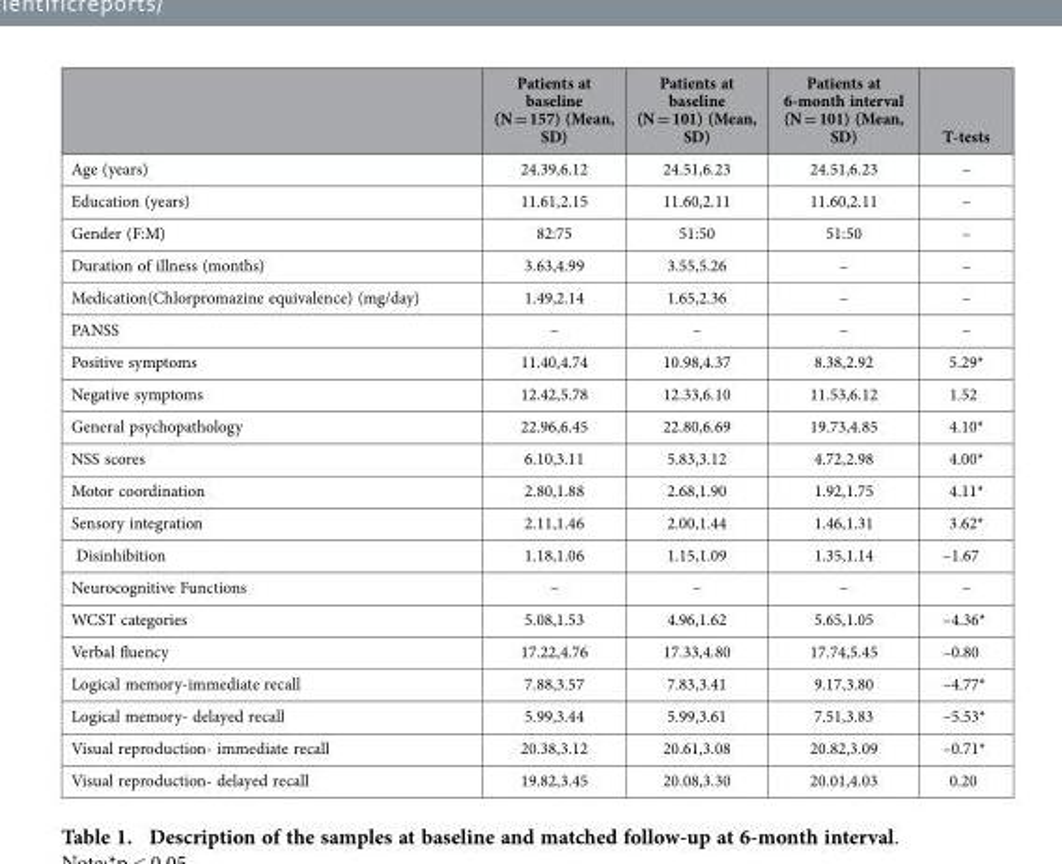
<table><thead><tr><td></td><td>Patients at baseline (N = 157) (Mean, SD)</td><td>Patients at baseline (N = 101) (Mean, SD)</td><td>Patients at 6-month interval (N = 101) (Mean, SD)</td><td>T-tests</td></tr></thead><tbody><tr><td>Age (years)</td><td>24.39,6.12</td><td>24.51,6.23</td><td>24.51,6.23</td><td>–</td></tr><tr><td>Education (years)</td><td>11.61,2.15</td><td>11.60,2.11</td><td>11.60,2.11</td><td>–</td></tr><tr><td>Gender (F:M)</td><td>82:75</td><td>51:50</td><td>51:50</td><td>–</td></tr><tr><td>Duration of illness (months)</td><td>3.63,4.99</td><td>3.55,5.26</td><td>–</td><td>–</td></tr><tr><td>Medication(Chlorpromazine equivalence) (mg/day)</td><td>1.49,2.14</td><td>1.65,2.36</td><td>–</td><td>–</td></tr><tr><td>PANSS</td><td>–</td><td>–</td><td>–</td><td>–</td></tr><tr><td>Positive symptoms</td><td>11.40,4.74</td><td>10.98,4.37</td><td>8.38,2.92</td><td>5.29*</td></tr><tr><td>Negative symptoms</td><td>12.42,5.78</td><td>12.33,6.10</td><td>11.53,6.12</td><td>1.52</td></tr><tr><td>General psychopathology</td><td>22.96,6.45</td><td>22.80,6.69</td><td>19.73,4.85</td><td>4.10*</td></tr><tr><td>NSS scores</td><td>6.10,3.11</td><td>5.83,3.12</td><td>4.72,2.98</td><td>4.00*</td></tr><tr><td>Motor coordination</td><td>2.80,1.88</td><td>2.68,1.90</td><td>1.92,1.75</td><td>4.11*</td></tr><tr><td>Sensory integration</td><td>2.11,1.46</td><td>2.00,1.44</td><td>1.46,1.31</td><td>3.62*</td></tr><tr><td>Disinhibition</td><td>1.18,1.06</td><td>1.15,1.09</td><td>1.35,1.14</td><td>–1.67</td></tr><tr><td>Neurocognitive Functions</td><td>–</td><td>–</td><td>–</td><td>–</td></tr><tr><td>WCST categories</td><td>5.08,1.53</td><td>4.96,1.62</td><td>5.65,1.05</td><td>–4.36*</td></tr><tr><td>Verbal fluency</td><td>17.22,4.76</td><td>17.33,4.80</td><td>17.74,5.45</td><td>–0.80</td></tr><tr><td>Logical memory-immediate recall</td><td>7.88,3.57</td><td>7.83,3.41</td><td>9.17,3.80</td><td>–4.77*</td></tr><tr><td>Logical memory- delayed recall</td><td>5.99,3.44</td><td>5.99,3.61</td><td>7.51,3.83</td><td>–5.53*</td></tr><tr><td>Visual reproduction- immediate recall</td><td>20.38,3.12</td><td>20.61,3.08</td><td>20.82,3.09</td><td>–0.71*</td></tr><tr><td>Visual reproduction- delayed recall</td><td>19.82,3.45</td><td>20.08,3.30</td><td>20.01,4.03</td><td>0.20</td></tr></tbody></table>